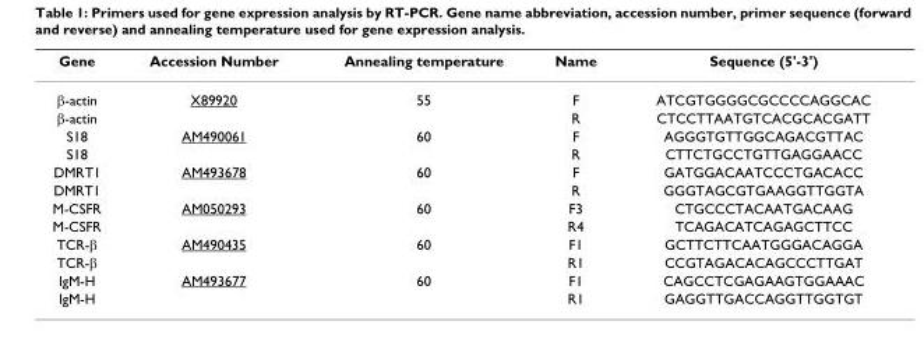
<table><thead><tr><td>Gene</td><td>Accession Number</td><td>Annealing temperature</td><td>Name</td><td>Sequence (5&#x27;-3&#x27;)</td></tr></thead><tbody><tr><td>β-actin</td><td>X89920</td><td>55</td><td>F</td><td>ATCGTGGGGCGCCCCAGGCAC</td></tr><tr><td>β-actin</td><td></td><td></td><td>R</td><td>CTCCTTAATGTCACGCACGATT</td></tr><tr><td>S18</td><td>AM490061</td><td>60</td><td>F</td><td>AGGGTGTTGGCAGACGTTAC</td></tr><tr><td>S18</td><td></td><td></td><td>R</td><td>CTTCTGCCTGTTGAGGAACC</td></tr><tr><td>DMRT1</td><td>AM493678</td><td>60</td><td>F</td><td>GATGGACAATCCCTGACACC</td></tr><tr><td>DMRT1</td><td></td><td></td><td>R</td><td>GGGTAGCGTGAAGGTTGGTA</td></tr><tr><td>M-CSFR</td><td>AM050293</td><td>60</td><td>F3</td><td>CTGCCCTACAATGACAAG</td></tr><tr><td>M-CSFR</td><td></td><td></td><td>R4</td><td>TCAGACATCAGAGCTTCC</td></tr><tr><td>TCR-β</td><td>AM490435</td><td>60</td><td>F1</td><td>GCTTCTTCAATGGGACAGGA</td></tr><tr><td>TCR-β</td><td></td><td></td><td>R1</td><td>CCGTAGACACAGCCCTTGAT</td></tr><tr><td>IgM-H</td><td>AM493677</td><td>60</td><td>F1</td><td>CAGCCTCGAGAAGTGGAAAC</td></tr><tr><td>IgM-H</td><td></td><td></td><td>R1</td><td>GAGGTTGACCAGGTTGGTGT</td></tr></tbody></table>